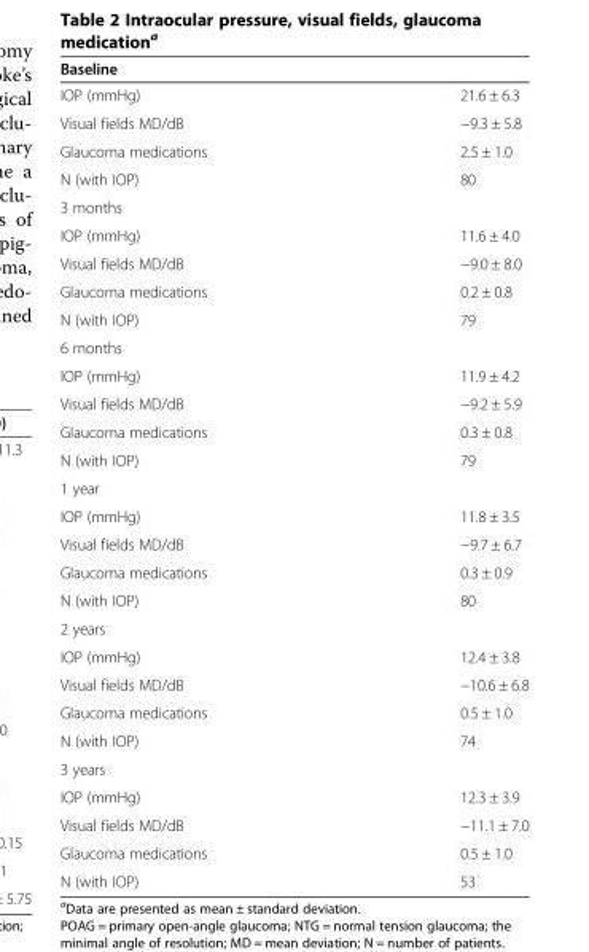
<table><thead><tr><td>Baseline</td><td></td></tr></thead><tbody><tr><td>IOP (mmHg)</td><td>21.6 ± 6.3</td></tr><tr><td>Visual fields MD/dB</td><td>−9.3 ± 5.8</td></tr><tr><td>Glaucoma medications</td><td>2.5 ± 1.0</td></tr><tr><td>N (with IOP)</td><td>80</td></tr><tr><td colspan="2">3 months</td></tr><tr><td>IOP (mmHg)</td><td>11.6 ± 4.0</td></tr><tr><td>Visual fields MD/dB</td><td>−9.0 ± 8.0</td></tr><tr><td>Glaucoma medications</td><td>0.2 ± 0.8</td></tr><tr><td>N (with IOP)</td><td>79</td></tr><tr><td colspan="2">6 months</td></tr><tr><td>IOP (mmHg)</td><td>11.9 ± 4.2</td></tr><tr><td>Visual fields MD/dB</td><td>−9.2 ± 5.9</td></tr><tr><td>Glaucoma medications</td><td>0.3 ± 0.8</td></tr><tr><td>N (with IOP)</td><td>79</td></tr><tr><td colspan="2">1 year</td></tr><tr><td>IOP (mmHg)</td><td>11.8 ± 3.5</td></tr><tr><td>Visual fields MD/dB</td><td>−9.7 ± 6.7</td></tr><tr><td>Glaucoma medications</td><td>0.3 ± 0.9</td></tr><tr><td>N (with IOP)</td><td>80</td></tr><tr><td colspan="2">2 years</td></tr><tr><td>IOP (mmHg)</td><td>12.4 ± 3.8</td></tr><tr><td>Visual fields MD/dB</td><td>−10.6 ± 6.8</td></tr><tr><td>Glaucoma medications</td><td>0.5 ± 1.0</td></tr><tr><td>N (with IOP)</td><td>74</td></tr><tr><td colspan="2">3 years</td></tr><tr><td>IOP (mmHg)</td><td>12.3 ± 3.9</td></tr><tr><td>Visual fields MD/dB</td><td>−11.1 ± 7.0</td></tr><tr><td>Glaucoma medications</td><td>0.5 ± 1.0</td></tr><tr><td>N (with IOP)</td><td>53</td></tr></tbody></table>